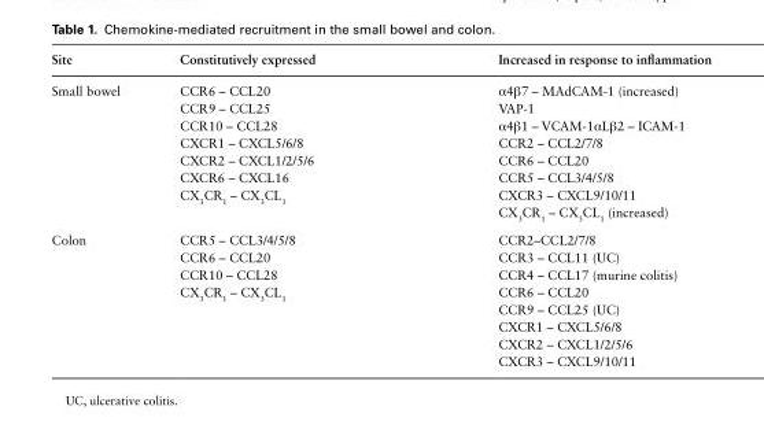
<table><thead><tr><td>Site</td><td>Constitutively expressed</td><td>Increased in response to inflammation</td></tr></thead><tbody><tr><td>Small bowel</td><td>CCR6 – CCL20 CCR9 – CCL25 CCR10 – CCL28 CXCR1 – CXCL5/6/8 CXCR2 – CXCL1/2/5/6 CXCR6 – CXCL16 CX3CR1 – CX3CL1</td><td>α4β7 – MAdCAM-1 (increased) VAP-1 α4β1 – VCAM-1αLβ2 – ICAM-1 CCR2 – CCL2/7/8 CCR6 – CCL20 CCR5 – CCL3/4/5/8 CXCR3 – CXCL9/10/11 CX<sub>3</sub>CR<sub>1</sub> – CX<sub>3</sub>CL<sub>1</sub> (increased)</td></tr><tr><td>Colon</td><td>CCR5 – CCL3/4/5/8 CCR6 – CCL20 CCR10 – CCL28 CX3CR1 – CX3CL1</td><td>CCR2–CCL2/7/8 CCR3 – CCL11 (UC) CCR4 – CCL17 (murine colitis) CCR6 – CCL20 CCR9 – CCL25 (UC) CXCR1 – CXCL5/6/8 CXCR2 – CXCL1/2/5/6 CXCR3 – CXCL9/10/11</td></tr></tbody></table>